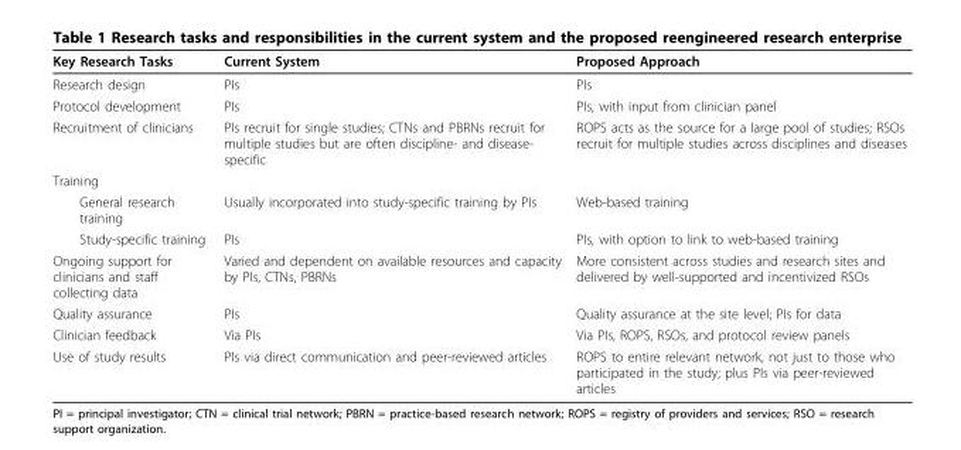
<table><thead><tr><td>Key Research Tasks</td><td>Current System</td><td>Proposed Approach</td></tr></thead><tbody><tr><td>Research design</td><td>PIs</td><td>PIs</td></tr><tr><td>Protocol development</td><td>PIs</td><td>PIs, with input from clinician panel</td></tr><tr><td>Recruitment of clinicians</td><td>PIs recruit for single studies; CTNs and PBRNs recruit for multiple studies but are often discipline- and disease- specific</td><td>ROPS acts as the source for a large pool of studies; RSOs recruit for multiple studies across disciplines and diseases</td></tr><tr><td colspan="3">Training</td></tr><tr><td>General research training</td><td>Usually incorporated into study-specific training by PIs</td><td>Web-based training</td></tr><tr><td>Study-specific training</td><td>PIs</td><td>PIs, with option to link to web-based training</td></tr><tr><td>Ongoing support for clinicians and staff collecting data</td><td>Varied and dependent on available resources and capacity by PIs, CTNs, PBRNs</td><td>More consistent across studies and research sites and delivered by well-supported and incentivized RSOs</td></tr><tr><td>Quality assurance</td><td>PIs</td><td>Quality assurance at the site level; PIs for data</td></tr><tr><td>Clinician feedback</td><td>Via PIs</td><td>Via PIs, ROPS, RSOs, and protocol review panels</td></tr><tr><td>Use of study results</td><td>PIs via direct communication and peer-reviewed articles</td><td>ROPS to entire relevant network, not just to those who participated in the study; plus PIs via peer-reviewed articles</td></tr></tbody></table>